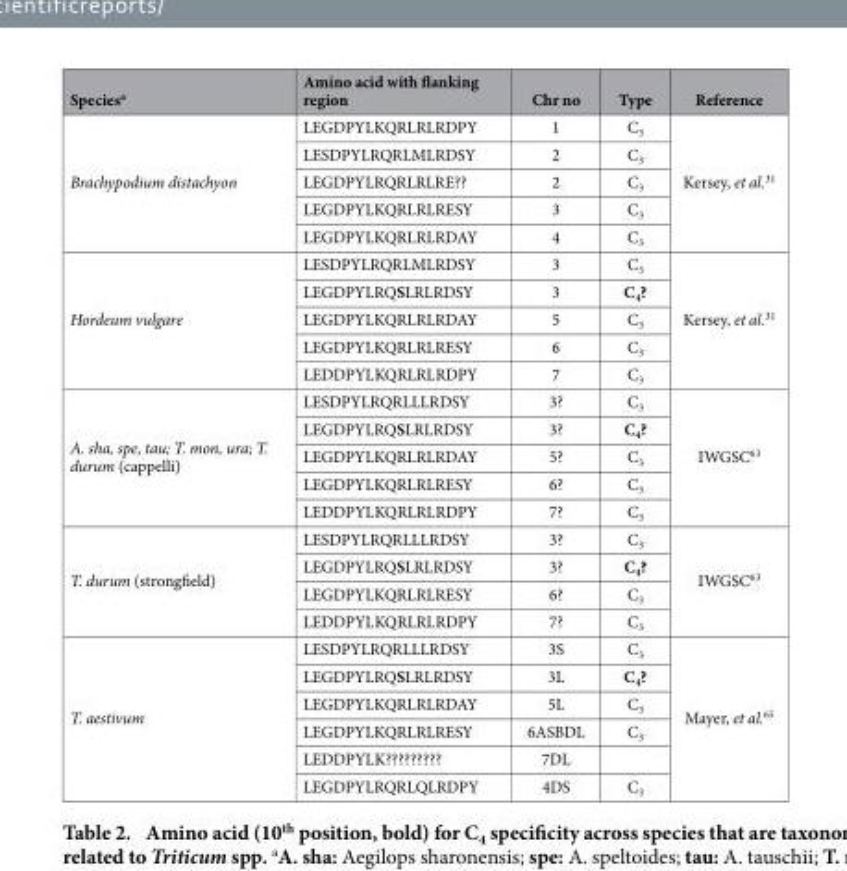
<table><thead><tr><td>Species<sup>a</sup></td><td>Amino acid with flanking region</td><td>Chr no</td><td>Type</td><td>Reference</td></tr></thead><tbody><tr><td rowspan="5">Brachypodium distachyon</td><td>LEGDPYLKQRLRLRDPY</td><td>1</td><td>C<sub>3</sub></td><td rowspan="5">Kersey, et al.<sup>31</sup></td></tr><tr><td>LESDPYLRQRLMLRDSY</td><td>2</td><td>C<sub>3</sub></td></tr><tr><td>LEGDPYLRQRLRLRE??</td><td>2</td><td>C<sub>3</sub></td></tr><tr><td>LEGDPYLKQRLRLRESY</td><td>3</td><td>C<sub>3</sub></td></tr><tr><td>LEGDPYLKQRLRLRDAY</td><td>4</td><td>C<sub>3</sub></td></tr><tr><td rowspan="5">Hordeum vulgare</td><td>LESDPYLRQRLMLRDSY</td><td>3</td><td>C<sub>3</sub></td><td rowspan="5">Kersey, et al.<sup>31</sup></td></tr><tr><td>LEGDPYLRQSLRLRDSY</td><td>3</td><td>C<sub>4</sub>?</td></tr><tr><td>LEGDPYLKQRLRLRDAY</td><td>5</td><td>C<sub>3</sub></td></tr><tr><td>LEGDPYLKQRLRLRESY</td><td>6</td><td>C<sub>3</sub></td></tr><tr><td>LEDDPYLKQRLRLRDPY</td><td>7</td><td>C<sub>3</sub></td></tr><tr><td rowspan="5">A. sha, spe, tau; T. mon, ura; T. durum (cappelli)</td><td>LESDPYLRQRLLLRDSY</td><td>3?</td><td>C<sub>3</sub></td><td rowspan="5">IWGSC<sup>63</sup></td></tr><tr><td>LEGDPYLRQSLRLRDSY</td><td>3?</td><td>C<sub>4</sub>?</td></tr><tr><td>LEGDPYLKQRLRLRDAY</td><td>5?</td><td>C<sub>3</sub></td></tr><tr><td>LEGDPYLKQRLRLRESY</td><td>6?</td><td>C<sub>3</sub></td></tr><tr><td>LEDDPYLKQRLRLRDPY</td><td>7?</td><td>C<sub>3</sub></td></tr><tr><td rowspan="4">T. durum (strongfield)</td><td>LESDPYLRQRLLLRDSY</td><td>3?</td><td>C<sub>3</sub></td><td rowspan="4">IWGSC<sup>63</sup></td></tr><tr><td>LEGDPYLRQSLRLRDSY</td><td>3?</td><td>C<sub>4</sub>?</td></tr><tr><td>LEGDPYLKQRLRLRESY</td><td>6?</td><td>C<sub>3</sub></td></tr><tr><td>LEDDPYLKQRLRLRDPY</td><td>7?</td><td>C<sub>3</sub></td></tr><tr><td rowspan="6">T. aestivum</td><td>LESDPYLRQRLLLRDSY</td><td>3S</td><td>C<sub>3</sub></td><td rowspan="6">Mayer, et al.<sup>65</sup></td></tr><tr><td>LEGDPYLRQSLRLRDSY</td><td>3L</td><td>C<sub>4</sub>?</td></tr><tr><td>LEGDPYLKQRLRLRDAY</td><td>5L</td><td>C<sub>3</sub></td></tr><tr><td>LEGDPYLKQRLRLRESY</td><td>6ASBDL</td><td>C<sub>3</sub></td></tr><tr><td>LEDDPYLK?????????</td><td>7DL</td><td></td></tr><tr><td>LEGDPYLRQRLQLRDPY</td><td>4DS</td><td>C<sub>3</sub></td></tr></tbody></table>